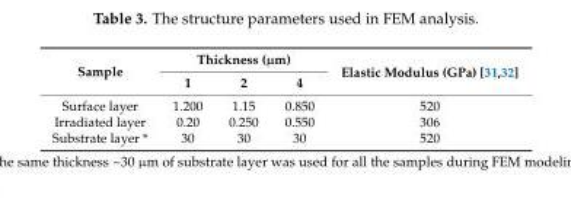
<table><thead><tr><td rowspan="2">Sample</td><td colspan="3">Thickness (µm)</td><td rowspan="2">Elastic Modulus (GPa) [31,32]</td></tr><tr><td>1</td><td>2</td><td>4</td></tr></thead><tbody><tr><td>Surface layer</td><td>1.200</td><td>1.15</td><td>0.850</td><td>520</td></tr><tr><td>Irradiated layer</td><td>0.20</td><td>0.250</td><td>0.550</td><td>306</td></tr><tr><td>Substrate layer *</td><td>30</td><td>30</td><td>30</td><td>520</td></tr></tbody></table>